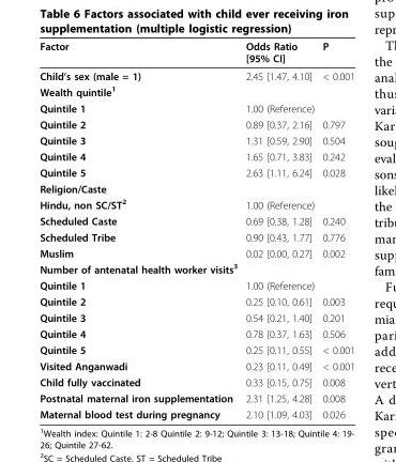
<table><thead><tr><td>Factor</td><td>Odds Ratio [95% CI]</td><td>P</td></tr></thead><tbody><tr><td>Child’s sex (male = 1)</td><td>2.45 [1.47, 4.10]</td><td>&lt; 0.001</td></tr><tr><td colspan="3">Wealth quintile<sup>1</sup></td></tr><tr><td>Quintile 1</td><td>1.00 (Reference)</td><td></td></tr><tr><td>Quintile 2</td><td>0.89 [0.37, 2.16]</td><td>0.797</td></tr><tr><td>Quintile 3</td><td>1.31 [0.59, 2.90]</td><td>0.504</td></tr><tr><td>Quintile 4</td><td>1.65 [0.71, 3.83]</td><td>0.242</td></tr><tr><td>Quintile 5</td><td>2.63 [1.11, 6.24]</td><td>0.028</td></tr><tr><td colspan="3">Religion/Caste</td></tr><tr><td>Hindu, non SC/ST<sup>2</sup></td><td>1.00 (Reference)</td><td></td></tr><tr><td>Scheduled Caste</td><td>0.69 [0.38, 1.28]</td><td>0.240</td></tr><tr><td>Scheduled Tribe</td><td>0.90 [0.43, 1.77]</td><td>0.776</td></tr><tr><td>Muslim</td><td>0.02 [0.00, 0.27]</td><td>0.002</td></tr><tr><td colspan="3">Number of antenatal health worker visits<sup>3</sup></td></tr><tr><td>Quintile 1</td><td>1.00 (Reference)</td><td></td></tr><tr><td>Quintile 2</td><td>0.25 [0.10, 0.61]</td><td>0.003</td></tr><tr><td>Quintile 3</td><td>0.54 [0.21, 1.40]</td><td>0.201</td></tr><tr><td>Quintile 4</td><td>0.78 [0.37, 1.63]</td><td>0.506</td></tr><tr><td>Quintile 5</td><td>0.25 [0.11, 0.55]</td><td>&lt; 0.001</td></tr><tr><td>Visited Anganwadi</td><td>0.23 [0.11, 0.49]</td><td>&lt; 0.001</td></tr><tr><td>Child fully vaccinated</td><td>0.33 [0.15, 0.75]</td><td>0.008</td></tr><tr><td>Postnatal maternal iron supplementation</td><td>2.31 [1.25, 4.28]</td><td>0.008</td></tr><tr><td>Maternal blood test during pregnancy</td><td>2.10 [1.09, 4.03]</td><td>0.026</td></tr></tbody></table>